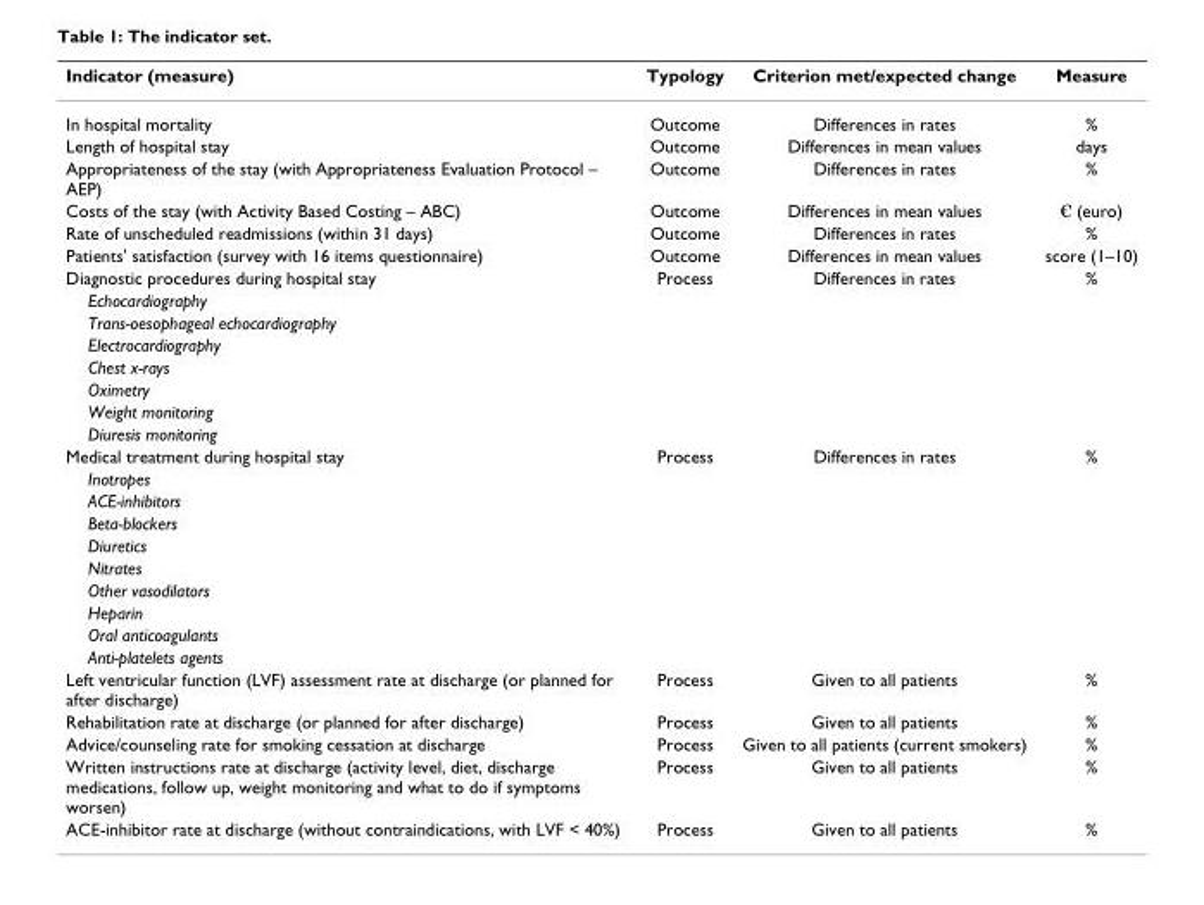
<table><thead><tr><td>Indicator (measure)</td><td>Typology</td><td>Criterion met/expected change</td><td>Measure</td></tr></thead><tbody><tr><td>In hospital mortality</td><td>Outcome</td><td>Differences in rates</td><td>%</td></tr><tr><td>Length of hospital stay</td><td>Outcome</td><td>Differences in mean values</td><td>days</td></tr><tr><td>Appropriateness of the stay (with Appropriateness Evaluation Protocol – AEP)</td><td>Outcome</td><td>Differences in rates</td><td>%</td></tr><tr><td>Costs of the stay (with Activity Based Costing – ABC)</td><td>Outcome</td><td>Differences in mean values</td><td>€ (euro)</td></tr><tr><td>Rate of unscheduled readmissions (within 31 days)</td><td>Outcome</td><td>Differences in rates</td><td>%</td></tr><tr><td>Patients&#x27; satisfaction (survey with 16 items questionnaire)</td><td>Outcome</td><td>Differences in mean values</td><td>score (1–10)</td></tr><tr><td>Diagnostic procedures during hospital stay</td><td>Process</td><td>Differences in rates</td><td>%</td></tr><tr><td colspan="4">Echocardiography</td></tr><tr><td colspan="4">Trans-oesophageal echocardiography</td></tr><tr><td colspan="4">Electrocardiography</td></tr><tr><td colspan="4">Chest x-rays</td></tr><tr><td colspan="4">Oximetry</td></tr><tr><td colspan="4">Weight monitoring</td></tr><tr><td colspan="4">Diuresis monitoring</td></tr><tr><td>Medical treatment during hospital stay</td><td>Process</td><td>Differences in rates</td><td>%</td></tr><tr><td colspan="4">Inotropes</td></tr><tr><td colspan="4">ACE-inhibitors</td></tr><tr><td colspan="4">Beta-blockers</td></tr><tr><td colspan="4">Diuretics</td></tr><tr><td colspan="4">Nitrates</td></tr><tr><td colspan="4">Other vasodilators</td></tr><tr><td colspan="4">Heparin</td></tr><tr><td colspan="4">Oral anticoagulants</td></tr><tr><td colspan="4">Anti-platelets agents</td></tr><tr><td>Left ventricular function (LVF) assessment rate at discharge (or planned for after discharge)</td><td>Process</td><td>Given to all patients</td><td>%</td></tr><tr><td>Rehabilitation rate at discharge (or planned for after discharge)</td><td>Process</td><td>Given to all patients</td><td>%</td></tr><tr><td>Advice/counseling rate for smoking cessation at discharge</td><td>Process</td><td>Given to all patients (current smokers)</td><td>%</td></tr><tr><td>Written instructions rate at discharge (activity level, diet, discharge medications, follow up, weight monitoring and what to do if symptoms worsen)</td><td>Process</td><td>Given to all patients</td><td>%</td></tr><tr><td>ACE-inhibitor rate at discharge (without contraindications, with LVF &lt; 40%)</td><td>Process</td><td>Given to all patients</td><td>%</td></tr></tbody></table>